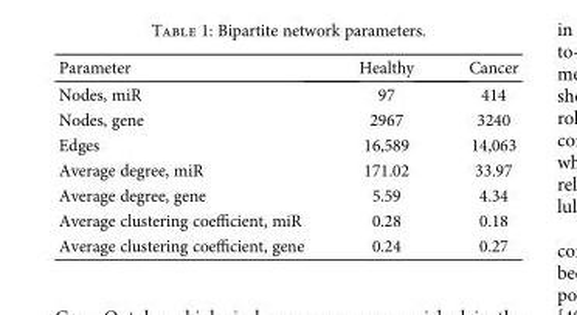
<table><thead><tr><td>Parameter</td><td>Healthy</td><td>Cancer</td></tr></thead><tbody><tr><td>Nodes, miR</td><td>97</td><td>414</td></tr><tr><td>Nodes, gene</td><td>2967</td><td>3240</td></tr><tr><td>Edges</td><td>16,589</td><td>14,063</td></tr><tr><td>Average degree, miR</td><td>171.02</td><td>33.97</td></tr><tr><td>Average degree, gene</td><td>5.59</td><td>4.34</td></tr><tr><td>Average clustering coefficient, miR</td><td>0.28</td><td>0.18</td></tr><tr><td>Average clustering coefficient, gene</td><td>0.24</td><td>0.27</td></tr></tbody></table>